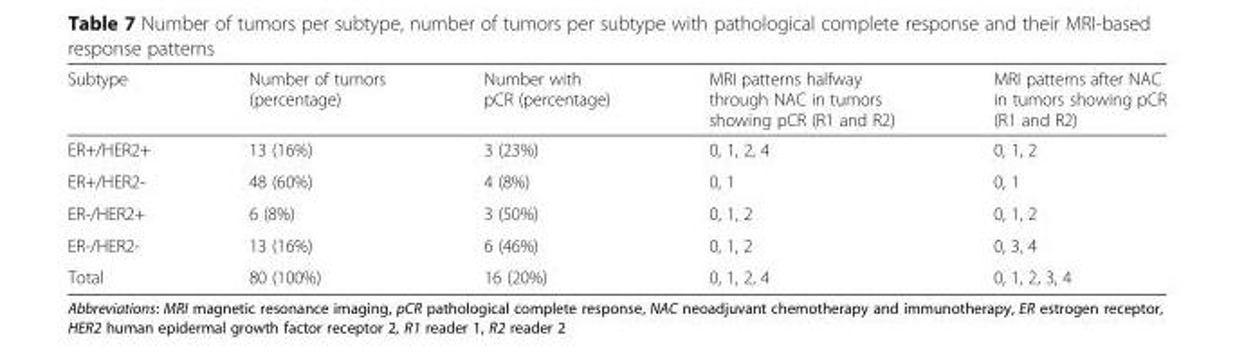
<table><thead><tr><td>Subtype</td><td>Number of tumors (percentage)</td><td>Number with pCR (percentage)</td><td>MRI patterns halfway through NAC in tumors showing pCR (R1 and R2)</td><td>MRI patterns after NAC in tumors showing pCR (R1 and R2)</td></tr></thead><tbody><tr><td>ER+/HER2+</td><td>13 (16%)</td><td>3 (23%)</td><td>0, 1, 2, 4</td><td>0, 1, 2</td></tr><tr><td>ER+/HER2-</td><td>48 (60%)</td><td>4 (8%)</td><td>0, 1</td><td>0, 1</td></tr><tr><td>ER-/HER2+</td><td>6 (8%)</td><td>3 (50%)</td><td>0, 1, 2</td><td>0, 1, 2</td></tr><tr><td>ER-/HER2-</td><td>13 (16%)</td><td>6 (46%)</td><td>0, 1, 2</td><td>0, 3, 4</td></tr><tr><td>Total</td><td>80 (100%)</td><td>16 (20%)</td><td>0, 1, 2, 4</td><td>0, 1, 2, 3, 4</td></tr></tbody></table>